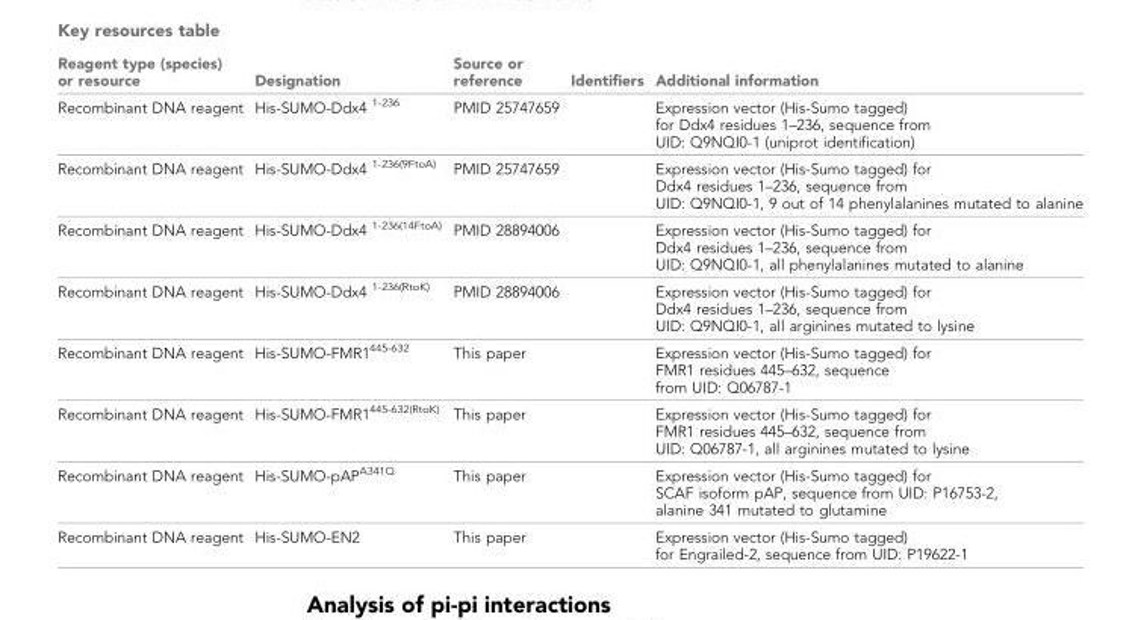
<table><thead><tr><td>Reagent type (species) or resource</td><td>Designation</td><td>Source or reference</td><td>Identifiers</td><td>Additional information</td></tr></thead><tbody><tr><td>Recombinant DNA reagent</td><td>His-SUMO-Ddx4 <sup>1-236</sup></td><td>PMID 25747659</td><td></td><td>Expression vector (His-Sumo tagged) for Ddx4 residues 1–236, sequence from UID: Q9NQI0-1 (uniprot identification)</td></tr><tr><td>Recombinant DNA reagent</td><td>His-SUMO-Ddx4 <sup>1-236(9FtoA)</sup></td><td>PMID 25747659</td><td></td><td>Expression vector (His-Sumo tagged) for Ddx4 residues 1–236, sequence from UID: Q9NQI0-1, 9 out of 14 phenylalanines mutated to alanine</td></tr><tr><td>Recombinant DNA reagent</td><td>His-SUMO-Ddx4 <sup>1-236(14FtoA)</sup></td><td>PMID 28894006</td><td></td><td>Expression vector (His-Sumo tagged) for Ddx4 residues 1–236, sequence from UID: Q9NQI0-1, all phenylalanines mutated to alanine</td></tr><tr><td>Recombinant DNA reagent</td><td>His-SUMO-Ddx4 <sup>1-236(RtoK)</sup></td><td>PMID 28894006</td><td></td><td>Expression vector (His-Sumo tagged) for Ddx4 residues 1–236, sequence from UID: Q9NQI0-1, all arginines mutated to lysine</td></tr><tr><td>Recombinant DNA reagent</td><td>His-SUMO-FMR1<sup>445-632</sup></td><td>This paper</td><td></td><td>Expression vector (His-Sumo tagged) for FMR1 residues 445–632, sequence from UID: Q06787-1</td></tr><tr><td>Recombinant DNA reagent</td><td>His-SUMO-FMR1<sup>445-632(RtoK)</sup></td><td>This paper</td><td></td><td>Expression vector (His-Sumo tagged) for FMR1 residues 445–632, sequence from UID: Q06787-1, all arginines mutated to lysine</td></tr><tr><td>Recombinant DNA reagent</td><td>His-SUMO-pAP<sup>A341Q</sup></td><td>This paper</td><td></td><td>Expression vector (His-Sumo tagged) for SCAF isoform pAP, sequence from UID: P16753-2, alanine 341 mutated to glutamine</td></tr><tr><td>Recombinant DNA reagent</td><td>His-SUMO-EN2</td><td>This paper</td><td></td><td>Expression vector (His-Sumo tagged) for Engrailed-2, sequence from UID: P19622-1</td></tr></tbody></table>